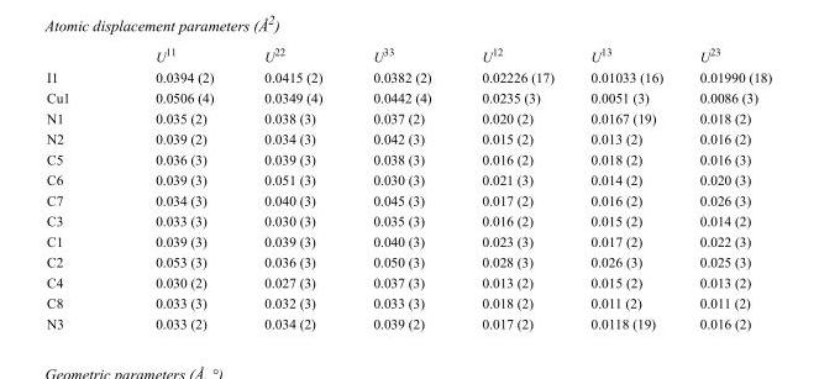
<table><thead><tr><td></td><td>U<sup>11</sup></td><td>U<sup>22</sup></td><td>U<sup>33</sup></td><td>U<sup>12</sup></td><td>U<sup>13</sup></td><td>U<sup>23</sup></td></tr></thead><tbody><tr><td>I1</td><td>0.0394 (2)</td><td>0.0415 (2)</td><td>0.0382 (2)</td><td>0.02226 (17)</td><td>0.01033 (16)</td><td>0.01990 (18)</td></tr><tr><td>Cu1</td><td>0.0506 (4)</td><td>0.0349 (4)</td><td>0.0442 (4)</td><td>0.0235 (3)</td><td>0.0051 (3)</td><td>0.0086 (3)</td></tr><tr><td>N1</td><td>0.035 (2)</td><td>0.038 (3)</td><td>0.037 (2)</td><td>0.020 (2)</td><td>0.0167 (19)</td><td>0.018 (2)</td></tr><tr><td>N2</td><td>0.039 (2)</td><td>0.034 (3)</td><td>0.042 (3)</td><td>0.015 (2)</td><td>0.013 (2)</td><td>0.016 (2)</td></tr><tr><td>C5</td><td>0.036 (3)</td><td>0.039 (3)</td><td>0.038 (3)</td><td>0.016 (2)</td><td>0.018 (2)</td><td>0.016 (3)</td></tr><tr><td>C6</td><td>0.039 (3)</td><td>0.051 (3)</td><td>0.030 (3)</td><td>0.021 (3)</td><td>0.014 (2)</td><td>0.020 (3)</td></tr><tr><td>C7</td><td>0.034 (3)</td><td>0.040 (3)</td><td>0.045 (3)</td><td>0.017 (2)</td><td>0.016 (2)</td><td>0.026 (3)</td></tr><tr><td>C3</td><td>0.033 (3)</td><td>0.030 (3)</td><td>0.035 (3)</td><td>0.016 (2)</td><td>0.015 (2)</td><td>0.014 (2)</td></tr><tr><td>C1</td><td>0.039 (3)</td><td>0.039 (3)</td><td>0.040 (3)</td><td>0.023 (3)</td><td>0.017 (2)</td><td>0.022 (3)</td></tr><tr><td>C2</td><td>0.053 (3)</td><td>0.036 (3)</td><td>0.050 (3)</td><td>0.028 (3)</td><td>0.026 (3)</td><td>0.025 (3)</td></tr><tr><td>C4</td><td>0.030 (2)</td><td>0.027 (3)</td><td>0.037 (3)</td><td>0.013 (2)</td><td>0.015 (2)</td><td>0.013 (2)</td></tr><tr><td>C8</td><td>0.033 (3)</td><td>0.032 (3)</td><td>0.033 (3)</td><td>0.018 (2)</td><td>0.011 (2)</td><td>0.011 (2)</td></tr><tr><td>N3</td><td>0.033 (2)</td><td>0.034 (2)</td><td>0.039 (2)</td><td>0.017 (2)</td><td>0.0118 (19)</td><td>0.016 (2)</td></tr></tbody></table>